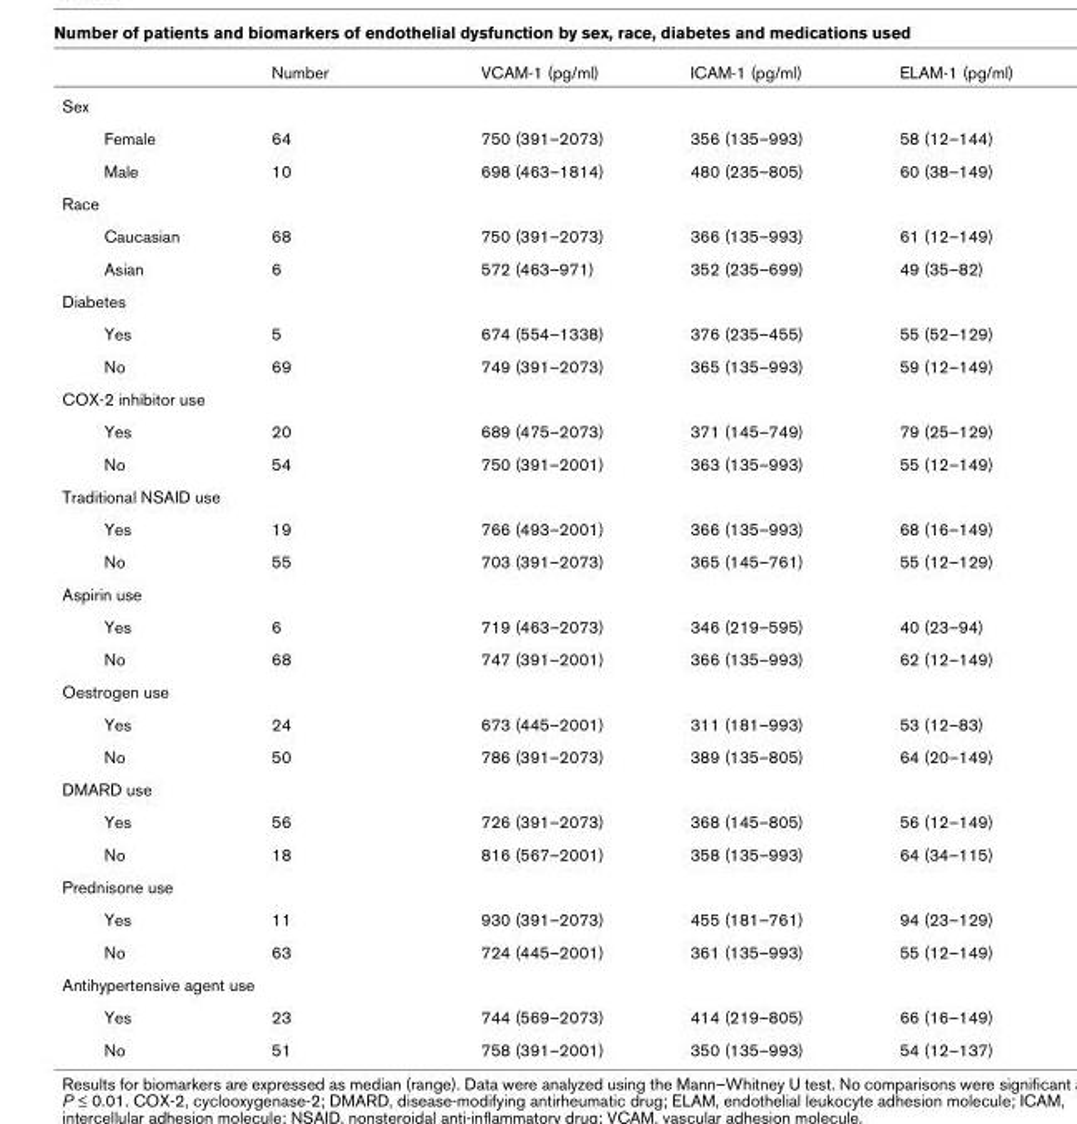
<table><thead><tr><td></td><td>Number</td><td>VCAM-1 (pg/ml)</td><td>ICAM-1 (pg/ml)</td><td>ELAM-1 (pg/ml)</td></tr></thead><tbody><tr><td colspan="5">Sex</td></tr><tr><td>Female</td><td>64</td><td>750 (391–2073)</td><td>356 (135–993)</td><td>58 (12–144)</td></tr><tr><td>Male</td><td>10</td><td>698 (463–1814)</td><td>480 (235–805)</td><td>60 (38–149)</td></tr><tr><td colspan="5">Race</td></tr><tr><td>Caucasian</td><td>68</td><td>750 (391–2073)</td><td>366 (135–993)</td><td>61 (12–149)</td></tr><tr><td>Asian</td><td>6</td><td>572 (463–971)</td><td>352 (235–699)</td><td>49 (35–82)</td></tr><tr><td colspan="5">Diabetes</td></tr><tr><td>Yes</td><td>5</td><td>674 (554–1338)</td><td>376 (235–455)</td><td>55 (52–129)</td></tr><tr><td>No</td><td>69</td><td>749 (391–2073)</td><td>365 (135–993)</td><td>59 (12–149)</td></tr><tr><td colspan="5">COX-2 inhibitor use</td></tr><tr><td>Yes</td><td>20</td><td>689 (475–2073)</td><td>371 (145–749)</td><td>79 (25–129)</td></tr><tr><td>No</td><td>54</td><td>750 (391–2001)</td><td>363 (135–993)</td><td>55 (12–149)</td></tr><tr><td colspan="5">Traditional NSAID use</td></tr><tr><td>Yes</td><td>19</td><td>766 (493–2001)</td><td>366 (135–993)</td><td>68 (16–149)</td></tr><tr><td>No</td><td>55</td><td>703 (391–2073)</td><td>365 (145–761)</td><td>55 (12–129)</td></tr><tr><td colspan="5">Aspirin use</td></tr><tr><td>Yes</td><td>6</td><td>719 (463–2073)</td><td>346 (219–595)</td><td>40 (23–94)</td></tr><tr><td>No</td><td>68</td><td>747 (391–2001)</td><td>366 (135–993)</td><td>62 (12–149)</td></tr><tr><td colspan="5">Oestrogen use</td></tr><tr><td>Yes</td><td>24</td><td>673 (445–2001)</td><td>311 (181–993)</td><td>53 (12–83)</td></tr><tr><td>No</td><td>50</td><td>786 (391–2073)</td><td>389 (135–805)</td><td>64 (20–149)</td></tr><tr><td colspan="5">DMARD use</td></tr><tr><td>Yes</td><td>56</td><td>726 (391–2073)</td><td>368 (145–805)</td><td>56 (12–149)</td></tr><tr><td>No</td><td>18</td><td>816 (567–2001)</td><td>358 (135–993)</td><td>64 (34–115)</td></tr><tr><td colspan="5">Prednisone use</td></tr><tr><td>Yes</td><td>11</td><td>930 (391–2073)</td><td>455 (181–761)</td><td>94 (23–129)</td></tr><tr><td>No</td><td>63</td><td>724 (445–2001)</td><td>361 (135–993)</td><td>55 (12–149)</td></tr><tr><td colspan="5">Antihypertensive agent use</td></tr><tr><td>Yes</td><td>23</td><td>744 (569–2073)</td><td>414 (219–805)</td><td>66 (16–149)</td></tr><tr><td>No</td><td>51</td><td>758 (391–2001)</td><td>350 (135–993)</td><td>54 (12–137)</td></tr></tbody></table>